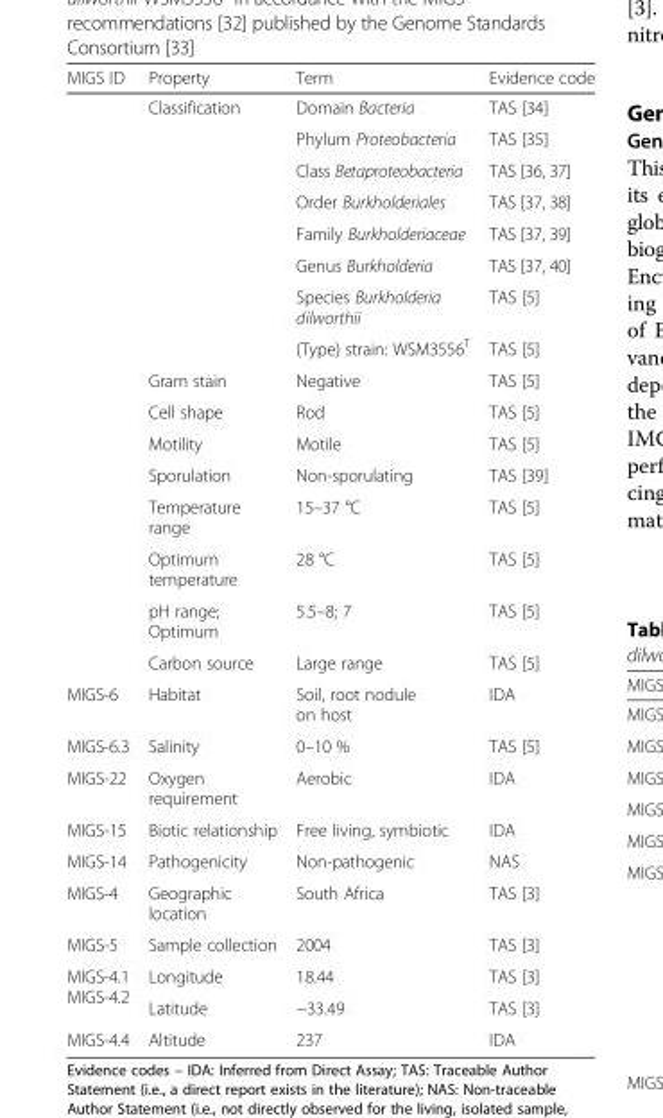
<table><thead><tr><td>MIGS ID</td><td>Property</td><td>Term</td><td>Evidence code</td></tr></thead><tbody><tr><td></td><td>Classification</td><td>Domain Bacteria</td><td>TAS [34]</td></tr><tr><td></td><td></td><td>Phylum Proteobacteria</td><td>TAS [35]</td></tr><tr><td></td><td></td><td>Class Betaproteobacteria</td><td>TAS [36, 37]</td></tr><tr><td></td><td></td><td>Order Burkholderiales</td><td>TAS [37, 38]</td></tr><tr><td></td><td></td><td>Family Burkholderiaceae</td><td>TAS [37, 39]</td></tr><tr><td></td><td></td><td>Genus Burkholderia</td><td>TAS [37, 40]</td></tr><tr><td></td><td></td><td>Species Burkholderia dilworthii</td><td>TAS [5]</td></tr><tr><td></td><td></td><td>(Type) strain: WSM3556<sup>T</sup></td><td>TAS [5]</td></tr><tr><td></td><td>Gram stain</td><td>Negative</td><td>TAS [5]</td></tr><tr><td></td><td>Cell shape</td><td>Rod</td><td>TAS [5]</td></tr><tr><td></td><td>Motility</td><td>Motile</td><td>TAS [5]</td></tr><tr><td></td><td>Sporulation</td><td>Non-sporulating</td><td>TAS [39]</td></tr><tr><td></td><td>Temperature range</td><td>15–37 °C</td><td>TAS [5]</td></tr><tr><td></td><td>Optimum temperature</td><td>28 °C</td><td>TAS [5]</td></tr><tr><td></td><td>pH range; Optimum</td><td>5.5–8; 7</td><td>TAS [5]</td></tr><tr><td></td><td>Carbon source</td><td>Large range</td><td>TAS [5]</td></tr><tr><td>MIGS-6</td><td>Habitat</td><td>Soil, root nodule on host</td><td>IDA</td></tr><tr><td>MIGS-6.3</td><td>Salinity</td><td>0–10 %</td><td>TAS [5]</td></tr><tr><td>MIGS-22</td><td>Oxygen requirement</td><td>Aerobic</td><td>IDA</td></tr><tr><td>MIGS-15</td><td>Biotic relationship</td><td>Free living, symbiotic</td><td>IDA</td></tr><tr><td>MIGS-14</td><td>Pathogenicity</td><td>Non-pathogenic</td><td>NAS</td></tr><tr><td>MIGS-4</td><td>Geographic location</td><td>South Africa</td><td>TAS [3]</td></tr><tr><td>MIGS-5</td><td>Sample collection</td><td>2004</td><td>TAS [3]</td></tr><tr><td rowspan="2">MIGS-4.1 MIGS-4.2</td><td>Longitude</td><td>18.44</td><td>TAS [3]</td></tr><tr><td>Latitude</td><td>−33.49</td><td>TAS [3]</td></tr><tr><td>MIGS-4.4</td><td>Altitude</td><td>237</td><td>IDA</td></tr></tbody></table>